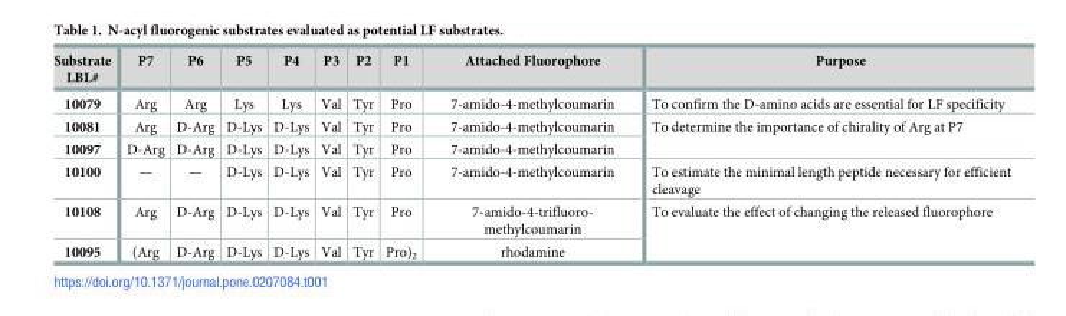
<table><thead><tr><td>Substrate LBL#</td><td>P7</td><td>P6</td><td>P5</td><td>P4</td><td>P3</td><td>P2</td><td>P1</td><td>Attached Fluorophore</td><td>Purpose</td></tr></thead><tbody><tr><td>10079</td><td>Arg</td><td>Arg</td><td>Lys</td><td>Lys</td><td>Val</td><td>Tyr</td><td>Pro</td><td>7-amido-4-methylcoumarin</td><td>To confirm the D-amino acids are essential for LF specificity</td></tr><tr><td>10081</td><td>Arg</td><td>D-Arg</td><td>D-Lys</td><td>D-Lys</td><td>Val</td><td>Tyr</td><td>Pro</td><td>7-amido-4-methylcoumarin</td><td rowspan="2">To determine the importance of chirality of Arg at P7</td></tr><tr><td>10097</td><td>D-Arg</td><td>D-Arg</td><td>D-Lys</td><td>D-Lys</td><td>Val</td><td>Tyr</td><td>Pro</td><td>7-amido-4-methylcoumarin</td></tr><tr><td>10100</td><td>—</td><td>—</td><td>D-Lys</td><td>D-Lys</td><td>Val</td><td>Tyr</td><td>Pro</td><td>7-amido-4-methylcoumarin</td><td>To estimate the minimal length peptide necessary for efficient cleavage</td></tr><tr><td>10108</td><td>Arg</td><td>D-Arg</td><td>D-Lys</td><td>D-Lys</td><td>Val</td><td>Tyr</td><td>Pro</td><td>7-amido-4-trifluoro- methylcoumarin</td><td rowspan="2">To evaluate the effect of changing the released fluorophore</td></tr><tr><td>10095</td><td>(Arg</td><td>D-Arg</td><td>D-Lys</td><td>D-Lys</td><td>Val</td><td>Tyr</td><td>Pro)<sub>2</sub></td><td>rhodamine</td></tr></tbody></table>